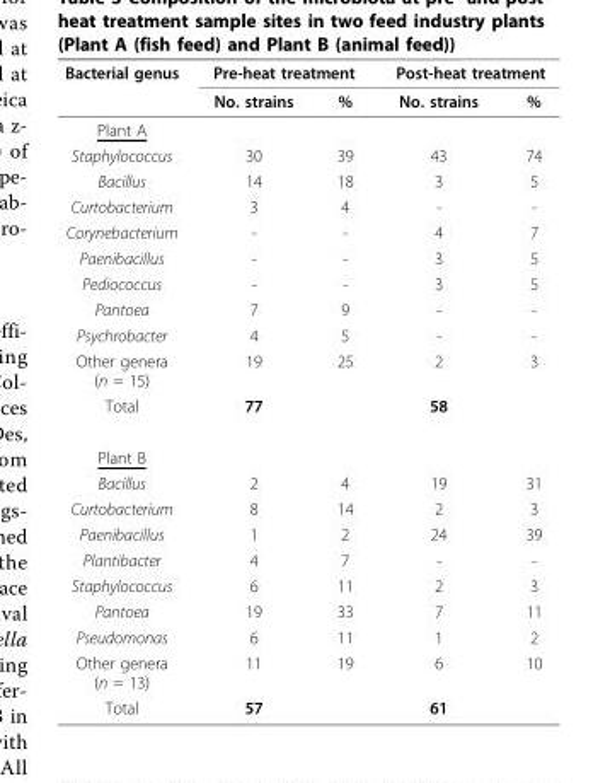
<table><thead><tr><td rowspan="2">Bacterial genus</td><td colspan="2">Pre-heat treatment</td><td colspan="2">Post-heat treatment</td></tr><tr><td>No. strains</td><td>%</td><td>No. strains</td><td>%</td></tr></thead><tbody><tr><td colspan="5">Plant A</td></tr><tr><td>Staphylococcus</td><td>30</td><td>39</td><td>43</td><td>74</td></tr><tr><td>Bacillus</td><td>14</td><td>18</td><td>3</td><td>5</td></tr><tr><td>Curtobacterium</td><td>3</td><td>4</td><td>-</td><td>-</td></tr><tr><td>Corynebacterium</td><td>-</td><td>-</td><td>4</td><td>7</td></tr><tr><td>Paenibacillus</td><td>-</td><td>-</td><td>3</td><td>5</td></tr><tr><td>Pediococcus</td><td>-</td><td>-</td><td>3</td><td>5</td></tr><tr><td>Pantoea</td><td>7</td><td>9</td><td>-</td><td>-</td></tr><tr><td>Psychrobacter</td><td>4</td><td>5</td><td>-</td><td>-</td></tr><tr><td>Other genera (n = 15)</td><td>19</td><td>25</td><td>2</td><td>3</td></tr><tr><td>Total</td><td>77</td><td></td><td>58</td><td></td></tr><tr><td colspan="5">Plant B</td></tr><tr><td>Bacillus</td><td>2</td><td>4</td><td>19</td><td>31</td></tr><tr><td>Curtobacterium</td><td>8</td><td>14</td><td>2</td><td>3</td></tr><tr><td>Paenibacillus</td><td>1</td><td>2</td><td>24</td><td>39</td></tr><tr><td>Plantibacter</td><td>4</td><td>7</td><td>-</td><td>-</td></tr><tr><td>Staphylococcus</td><td>6</td><td>11</td><td>2</td><td>3</td></tr><tr><td>Pantoea</td><td>19</td><td>33</td><td>7</td><td>11</td></tr><tr><td>Pseudomonas</td><td>6</td><td>11</td><td>1</td><td>2</td></tr><tr><td>Other genera (n = 13)</td><td>11</td><td>19</td><td>6</td><td>10</td></tr><tr><td>Total</td><td>57</td><td></td><td>61</td><td></td></tr></tbody></table>